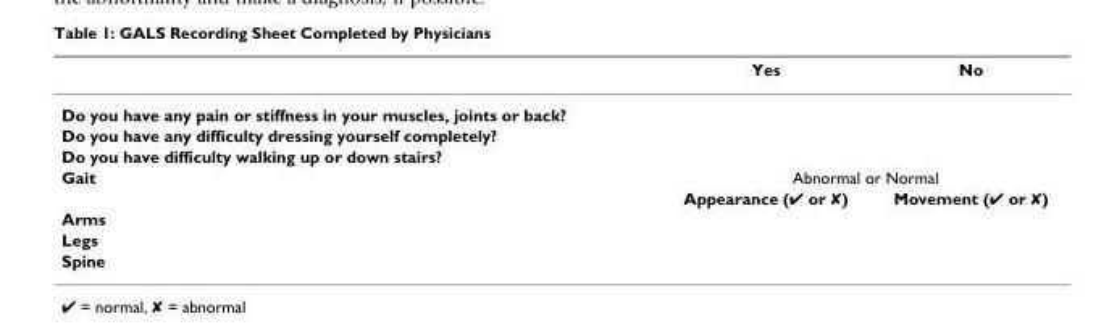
<table><thead><tr><td></td><td>Yes</td><td>No</td></tr></thead><tbody><tr><td colspan="3">Do you have any pain or stiffness in your muscles, joints or back?</td></tr><tr><td colspan="3">Do you have any difficulty dressing yourself completely?</td></tr><tr><td colspan="3">Do you have difficulty walking up or down stairs?</td></tr><tr><td rowspan="2">Gait</td><td colspan="2">Abnormal or Normal</td></tr><tr><td>Appearance (✔ or ✘)</td><td>Movement (✔ or ✘)</td></tr><tr><td colspan="3">Arms</td></tr><tr><td colspan="3">Legs</td></tr><tr><td>Spine</td><td></td><td></td></tr></tbody></table>